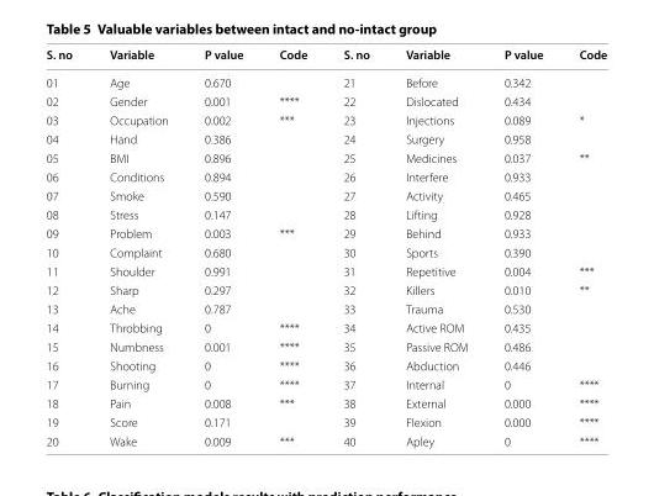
<table><thead><tr><td>S. no</td><td>Variable</td><td>P value</td><td>Code</td><td>S. no</td><td>Variable</td><td>P value</td><td>Code</td></tr></thead><tbody><tr><td>01</td><td>Age</td><td>0.670</td><td></td><td>21</td><td>Before</td><td>0.342</td><td></td></tr><tr><td>02</td><td>Gender</td><td>0.001</td><td>****</td><td>22</td><td>Dislocated</td><td>0.434</td><td></td></tr><tr><td>03</td><td>Occupation</td><td>0.002</td><td>***</td><td>23</td><td>Injections</td><td>0.089</td><td>*</td></tr><tr><td>04</td><td>Hand</td><td>0.386</td><td></td><td>24</td><td>Surgery</td><td>0.958</td><td></td></tr><tr><td>05</td><td>BMI</td><td>0.896</td><td></td><td>25</td><td>Medicines</td><td>0.037</td><td>**</td></tr><tr><td>06</td><td>Conditions</td><td>0.894</td><td></td><td>26</td><td>Interfere</td><td>0.933</td><td></td></tr><tr><td>07</td><td>Smoke</td><td>0.590</td><td></td><td>27</td><td>Activity</td><td>0.465</td><td></td></tr><tr><td>08</td><td>Stress</td><td>0.147</td><td></td><td>28</td><td>Lifting</td><td>0.928</td><td></td></tr><tr><td>09</td><td>Problem</td><td>0.003</td><td>***</td><td>29</td><td>Behind</td><td>0.933</td><td></td></tr><tr><td>10</td><td>Complaint</td><td>0.680</td><td></td><td>30</td><td>Sports</td><td>0.390</td><td></td></tr><tr><td>11</td><td>Shoulder</td><td>0.991</td><td></td><td>31</td><td>Repetitive</td><td>0.004</td><td>***</td></tr><tr><td>12</td><td>Sharp</td><td>0.297</td><td></td><td>32</td><td>Killers</td><td>0.010</td><td>**</td></tr><tr><td>13</td><td>Ache</td><td>0.787</td><td></td><td>33</td><td>Trauma</td><td>0.530</td><td></td></tr><tr><td>14</td><td>Throbbing</td><td>0</td><td>****</td><td>34</td><td>Active ROM</td><td>0.435</td><td></td></tr><tr><td>15</td><td>Numbness</td><td>0.001</td><td>****</td><td>35</td><td>Passive ROM</td><td>0.486</td><td></td></tr><tr><td>16</td><td>Shooting</td><td>0</td><td>****</td><td>36</td><td>Abduction</td><td>0.446</td><td></td></tr><tr><td>17</td><td>Burning</td><td>0</td><td>****</td><td>37</td><td>Internal</td><td>0</td><td>****</td></tr><tr><td>18</td><td>Pain</td><td>0.008</td><td>***</td><td>38</td><td>External</td><td>0.000</td><td>****</td></tr><tr><td>19</td><td>Score</td><td>0.171</td><td></td><td>39</td><td>Flexion</td><td>0.000</td><td>****</td></tr><tr><td>20</td><td>Wake</td><td>0.009</td><td>***</td><td>40</td><td>Apley</td><td>0</td><td>****</td></tr></tbody></table>